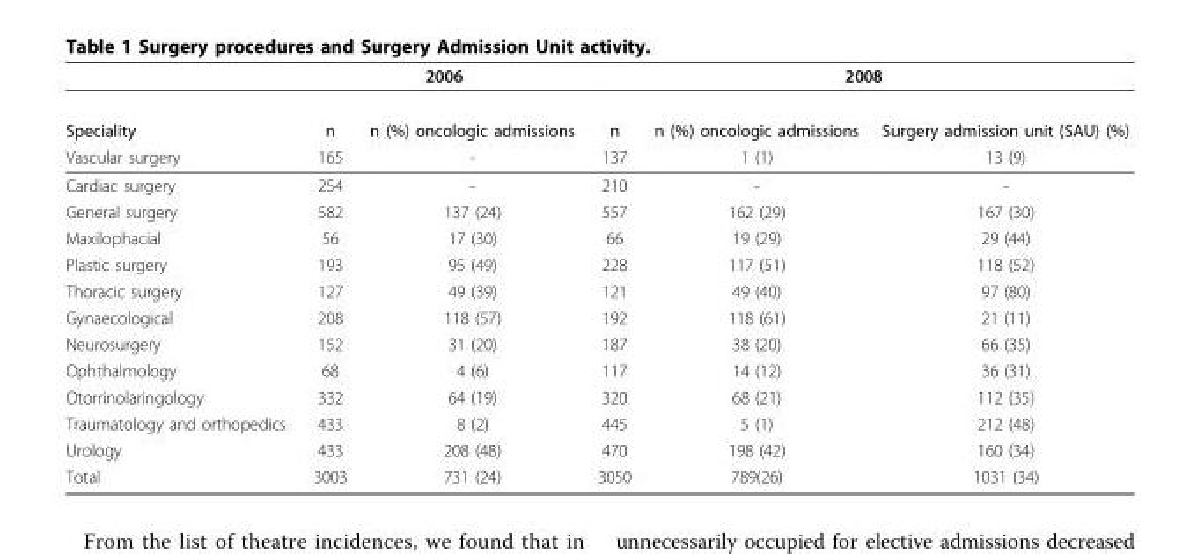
<table><thead><tr><td rowspan="2">Speciality</td><td colspan="2">2006</td><td colspan="3">2008</td></tr><tr><td>n</td><td>n (%) oncologic admissions</td><td>n</td><td>n (%) oncologic admissions</td><td>Surgery admission unit (SAU) (%)</td></tr></thead><tbody><tr><td>Vascular surgery</td><td>165</td><td>-</td><td>137</td><td>1 (1)</td><td>13 (9)</td></tr><tr><td>Cardiac surgery</td><td>254</td><td>-</td><td>210</td><td>-</td><td>-</td></tr><tr><td>General surgery</td><td>582</td><td>137 (24)</td><td>557</td><td>162 (29)</td><td>167 (30)</td></tr><tr><td>Maxilophacial</td><td>56</td><td>17 (30)</td><td>66</td><td>19 (29)</td><td>29 (44)</td></tr><tr><td>Plastic surgery</td><td>193</td><td>95 (49)</td><td>228</td><td>117 (51)</td><td>118 (52)</td></tr><tr><td>Thoracic surgery</td><td>127</td><td>49 (39)</td><td>121</td><td>49 (40)</td><td>97 (80)</td></tr><tr><td>Gynaecological</td><td>208</td><td>118 (57)</td><td>192</td><td>118 (61)</td><td>21 (11)</td></tr><tr><td>Neurosurgery</td><td>152</td><td>31 (20)</td><td>187</td><td>38 (20)</td><td>66 (35)</td></tr><tr><td>Ophthalmology</td><td>68</td><td>4 (6)</td><td>117</td><td>14 (12)</td><td>36 (31)</td></tr><tr><td>Otorrinolaringology</td><td>332</td><td>64 (19)</td><td>320</td><td>68 (21)</td><td>112 (35)</td></tr><tr><td>Traumatology and orthopedics</td><td>433</td><td>8 (2)</td><td>445</td><td>5 (1)</td><td>212 (48)</td></tr><tr><td>Urology</td><td>433</td><td>208 (48)</td><td>470</td><td>198 (42)</td><td>160 (34)</td></tr><tr><td>Total</td><td>3003</td><td>731 (24)</td><td>3050</td><td>789(26)</td><td>1031 (34)</td></tr></tbody></table>